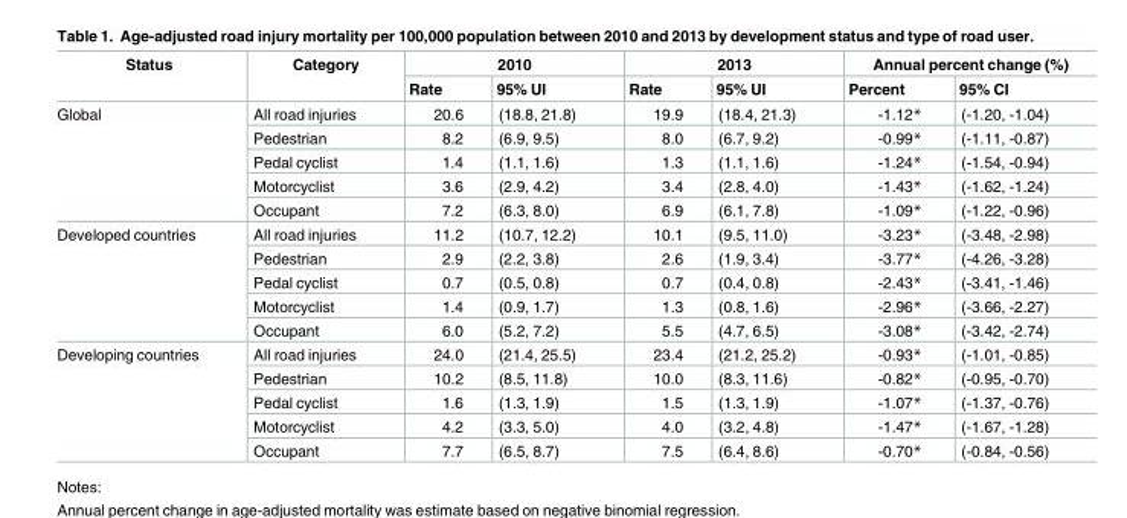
<table><thead><tr><td rowspan="2">Status</td><td rowspan="2">Category</td><td colspan="2">2010</td><td colspan="2">2013</td><td colspan="2">Annual percent change (%)</td></tr><tr><td>Rate</td><td>95% UI</td><td>Rate</td><td>95% UI</td><td>Percent</td><td>95% CI</td></tr></thead><tbody><tr><td rowspan="5">Global</td><td>All road injuries</td><td>20.6</td><td>(18.8, 21.8)</td><td>19.9</td><td>(18.4, 21.3)</td><td>-1.12*</td><td>(-1.20, -1.04)</td></tr><tr><td>Pedestrian</td><td>8.2</td><td>(6.9, 9.5)</td><td>8.0</td><td>(6.7, 9.2)</td><td>-0.99*</td><td>(-1.11, -0.87)</td></tr><tr><td>Pedal cyclist</td><td>1.4</td><td>(1.1, 1.6)</td><td>1.3</td><td>(1.1, 1.6)</td><td>-1.24*</td><td>(-1.54, -0.94)</td></tr><tr><td>Motorcyclist</td><td>3.6</td><td>(2.9, 4.2)</td><td>3.4</td><td>(2.8, 4.0)</td><td>-1.43*</td><td>(-1.62, -1.24)</td></tr><tr><td>Occupant</td><td>7.2</td><td>(6.3, 8.0)</td><td>6.9</td><td>(6.1, 7.8)</td><td>-1.09*</td><td>(-1.22, -0.96)</td></tr><tr><td rowspan="5">Developed countries</td><td>All road injuries</td><td>11.2</td><td>(10.7, 12.2)</td><td>10.1</td><td>(9.5, 11.0)</td><td>-3.23*</td><td>(-3.48, -2.98)</td></tr><tr><td>Pedestrian</td><td>2.9</td><td>(2.2, 3.8)</td><td>2.6</td><td>(1.9, 3.4)</td><td>-3.77*</td><td>(-4.26, -3.28)</td></tr><tr><td>Pedal cyclist</td><td>0.7</td><td>(0.5, 0.8)</td><td>0.7</td><td>(0.4, 0.8)</td><td>-2.43*</td><td>(-3.41, -1.46)</td></tr><tr><td>Motorcyclist</td><td>1.4</td><td>(0.9, 1.7)</td><td>1.3</td><td>(0.8, 1.6)</td><td>-2.96*</td><td>(-3.66, -2.27)</td></tr><tr><td>Occupant</td><td>6.0</td><td>(5.2, 7.2)</td><td>5.5</td><td>(4.7, 6.5)</td><td>-3.08*</td><td>(-3.42, -2.74)</td></tr><tr><td rowspan="5">Developing countries</td><td>All road injuries</td><td>24.0</td><td>(21.4, 25.5)</td><td>23.4</td><td>(21.2, 25.2)</td><td>-0.93*</td><td>(-1.01, -0.85)</td></tr><tr><td>Pedestrian</td><td>10.2</td><td>(8.5, 11.8)</td><td>10.0</td><td>(8.3, 11.6)</td><td>-0.82*</td><td>(-0.95, -0.70)</td></tr><tr><td>Pedal cyclist</td><td>1.6</td><td>(1.3, 1.9)</td><td>1.5</td><td>(1.3, 1.9)</td><td>-1.07*</td><td>(-1.37, -0.76)</td></tr><tr><td>Motorcyclist</td><td>4.2</td><td>(3.3, 5.0)</td><td>4.0</td><td>(3.2, 4.8)</td><td>-1.47*</td><td>(-1.67, -1.28)</td></tr><tr><td>Occupant</td><td>7.7</td><td>(6.5, 8.7)</td><td>7.5</td><td>(6.4, 8.6)</td><td>-0.70*</td><td>(-0.84, -0.56)</td></tr></tbody></table>